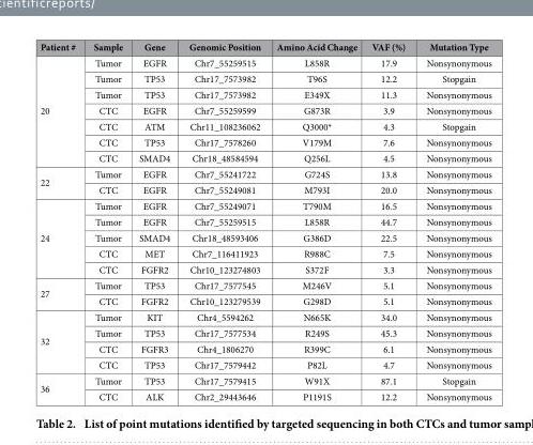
<table><thead><tr><td>Patient #</td><td>Sample</td><td>Gene</td><td>Genomic Position</td><td>Amino Acid Change</td><td>VAF (%)</td><td>Mutation Type</td></tr></thead><tbody><tr><td rowspan="7">20</td><td>Tumor</td><td>EGFR</td><td>Chr7_55259515</td><td>L858R</td><td>17.9</td><td>Nonsynonymous</td></tr><tr><td>Tumor</td><td>TP53</td><td>Chr17_7573982</td><td>T96S</td><td>12.2</td><td>Stopgain</td></tr><tr><td>Tumor</td><td>TP53</td><td>Chr17_7573982</td><td>E349X</td><td>11.3</td><td>Nonsynonymous</td></tr><tr><td>CTC</td><td>EGFR</td><td>Chr7_55259599</td><td>G873R</td><td>3.9</td><td>Nonsynonymous</td></tr><tr><td>CTC</td><td>ATM</td><td>Chr11_108236062</td><td>Q3000*</td><td>4.3</td><td>Stopgain</td></tr><tr><td>CTC</td><td>TP53</td><td>Chr17_7578260</td><td>V179M</td><td>7.6</td><td>Nonsynonymous</td></tr><tr><td>CTC</td><td>SMAD4</td><td>Chr18_48584594</td><td>Q256L</td><td>4.5</td><td>Nonsynonymous</td></tr><tr><td rowspan="2">22</td><td>Tumor</td><td>EGFR</td><td>Chr7_55241722</td><td>G724S</td><td>13.8</td><td>Nonsynonymous</td></tr><tr><td>CTC</td><td>EGFR</td><td>Chr7_55249081</td><td>M793I</td><td>20.0</td><td>Nonsynonymous</td></tr><tr><td rowspan="5">24</td><td>Tumor</td><td>EGFR</td><td>Chr7_55249071</td><td>T790M</td><td>16.5</td><td>Nonsynonymous</td></tr><tr><td>Tumor</td><td>EGFR</td><td>Chr7_55259515</td><td>L858R</td><td>44.7</td><td>Nonsynonymous</td></tr><tr><td>Tumor</td><td>SMAD4</td><td>Chr18_48593406</td><td>G386D</td><td>22.5</td><td>Nonsynonymous</td></tr><tr><td>CTC</td><td>MET</td><td>Chr7_116411923</td><td>R988C</td><td>7.5</td><td>Nonsynonymous</td></tr><tr><td>CTC</td><td>FGFR2</td><td>Chr10_123274803</td><td>S372F</td><td>3.3</td><td>Nonsynonymous</td></tr><tr><td rowspan="2">27</td><td>Tumor</td><td>TP53</td><td>Chr17_7577545</td><td>M246V</td><td>5.1</td><td>Nonsynonymous</td></tr><tr><td>CTC</td><td>FGFR2</td><td>Chr10_123279539</td><td>G298D</td><td>5.1</td><td>Nonsynonymous</td></tr><tr><td rowspan="4">32</td><td>Tumor</td><td>KIT</td><td>Chr4_5594262</td><td>N665K</td><td>34.0</td><td>Nonsynonymous</td></tr><tr><td>Tumor</td><td>TP53</td><td>Chr17_7577534</td><td>R249S</td><td>45.3</td><td>Nonsynonymous</td></tr><tr><td>CTC</td><td>FGFR3</td><td>Chr4_1806270</td><td>R399C</td><td>6.1</td><td>Nonsynonymous</td></tr><tr><td>CTC</td><td>TP53</td><td>Chr17_7579442</td><td>P82L</td><td>4.7</td><td>Nonsynonymous</td></tr><tr><td rowspan="2">36</td><td>Tumor</td><td>TP53</td><td>Chr17_7579415</td><td>W91X</td><td>87.1</td><td>Stopgain</td></tr><tr><td>CTC</td><td>ALK</td><td>Chr2_29443646</td><td>P1191S</td><td>12.2</td><td>Nonsynonymous</td></tr></tbody></table>